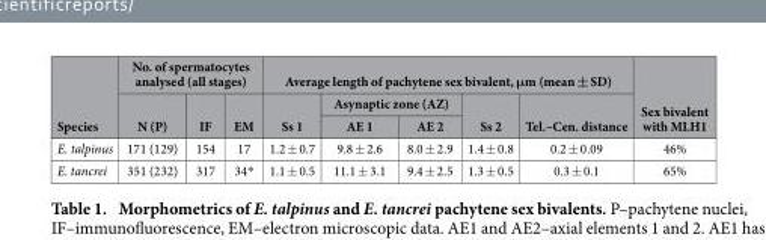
<table><thead><tr><td rowspan="3">Species</td><td colspan="3">No. of spermatocytes analysed (all stages)</td><td colspan="5">Average length of pachytene sex bivalent, μm (mean ± SD)</td><td rowspan="3">Sex bivalent with MLH1</td></tr><tr><td rowspan="2">N (P)</td><td rowspan="2">IF</td><td rowspan="2">EM</td><td rowspan="2">Ss 1</td><td colspan="2">Asynaptic zone (AZ)</td><td rowspan="2">Ss 2</td><td rowspan="2">Tel.–Cen. distance</td></tr><tr><td>AE 1</td><td>AE 2</td></tr></thead><tbody><tr><td>E. talpinus</td><td>171 (129)</td><td>154</td><td>17</td><td>1.2 ± 0.7</td><td>9.8 ± 2.6</td><td>8.0 ± 2.9</td><td>1.4 ± 0.8</td><td>0.2 ± 0.09</td><td>46%</td></tr><tr><td>E. tancrei</td><td>351 (232)</td><td>317</td><td>34*</td><td>1.1 ± 0.5</td><td>11.1 ± 3.1</td><td>9.4 ± 2.5</td><td>1.3 ± 0.5</td><td>0.3 ± 0.1</td><td>65%</td></tr></tbody></table>